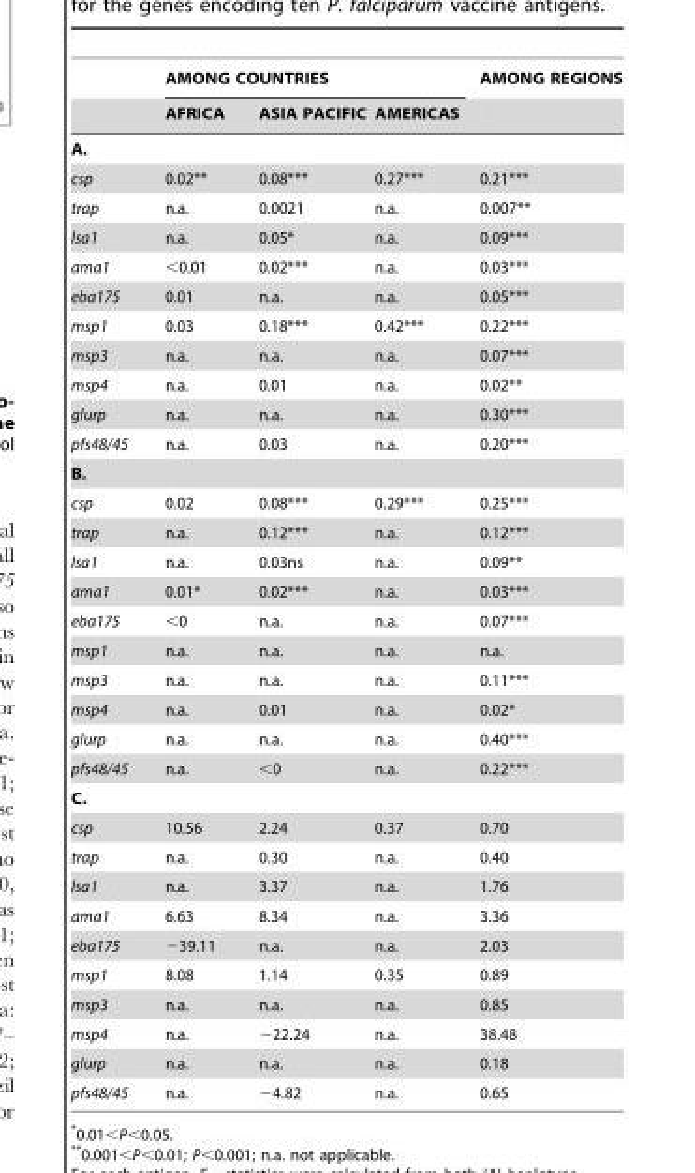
<table><thead><tr><td rowspan="2"></td><td colspan="3">AMONG COUNTRIES</td><td rowspan="2">AMONG REGIONS</td></tr><tr><td>AFRICA</td><td>ASIA PACIFIC</td><td>AMERICAS</td></tr></thead><tbody><tr><td colspan="5">A.</td></tr><tr><td>csp</td><td>0.02**</td><td>0.08***</td><td>0.27***</td><td>0.21***</td></tr><tr><td>trap</td><td>n.a.</td><td>0.0021</td><td>n.a.</td><td>0.007**</td></tr><tr><td>lsa1</td><td>n.a.</td><td>0.05*</td><td>n.a.</td><td>0.09***</td></tr><tr><td>ama1</td><td>&lt;0.01</td><td>0.02***</td><td>n.a.</td><td>0.03***</td></tr><tr><td>eba175</td><td>0.01</td><td>n.a.</td><td>n.a.</td><td>0.05***</td></tr><tr><td>msp1</td><td>0.03</td><td>0.18***</td><td>0.42***</td><td>0.22***</td></tr><tr><td>msp3</td><td>n.a.</td><td>n.a.</td><td>n.a.</td><td>0.07***</td></tr><tr><td>msp4</td><td>n.a.</td><td>0.01</td><td>n.a.</td><td>0.02**</td></tr><tr><td>glurp</td><td>n.a.</td><td>n.a.</td><td>n.a.</td><td>0.30***</td></tr><tr><td>pfs48/45</td><td>n.a.</td><td>0.03</td><td>n.a.</td><td>0.20***</td></tr><tr><td colspan="5">B.</td></tr><tr><td>csp</td><td>0.02</td><td>0.08***</td><td>0.29***</td><td>0.25***</td></tr><tr><td>trap</td><td>n.a.</td><td>0.12***</td><td>n.a.</td><td>0.12***</td></tr><tr><td>lsa1</td><td>n.a.</td><td>0.03ns</td><td>n.a.</td><td>0.09**</td></tr><tr><td>ama1</td><td>0.01*</td><td>0.02***</td><td>n.a.</td><td>0.03***</td></tr><tr><td>eba175</td><td>&lt;0</td><td>n.a.</td><td>n.a.</td><td>0.07***</td></tr><tr><td>msp1</td><td>n.a.</td><td>n.a.</td><td>n.a.</td><td>n.a.</td></tr><tr><td>msp3</td><td>n.a.</td><td>n.a.</td><td>n.a.</td><td>0.11***</td></tr><tr><td>msp4</td><td>n.a.</td><td>0.01</td><td>n.a.</td><td>0.02*</td></tr><tr><td>glurp</td><td>n.a.</td><td>n.a.</td><td>n.a.</td><td>0.40***</td></tr><tr><td>pfs48/45</td><td>n.a.</td><td>&lt;0</td><td>n.a.</td><td>0.22***</td></tr><tr><td colspan="5">C.</td></tr><tr><td>csp</td><td>10.56</td><td>2.24</td><td>0.37</td><td>0.70</td></tr><tr><td>trap</td><td>n.a.</td><td>0.30</td><td>n.a.</td><td>0.40</td></tr><tr><td>lsa1</td><td>n.a.</td><td>3.37</td><td>n.a.</td><td>1.76</td></tr><tr><td>ama1</td><td>6.63</td><td>8.34</td><td>n.a.</td><td>3.36</td></tr><tr><td>eba175</td><td>−39.11</td><td>n.a.</td><td>n.a.</td><td>2.03</td></tr><tr><td>msp1</td><td>8.08</td><td>1.14</td><td>0.35</td><td>0.89</td></tr><tr><td>msp3</td><td>n.a.</td><td>n.a.</td><td>n.a.</td><td>0.85</td></tr><tr><td>msp4</td><td>n.a.</td><td>−22.24</td><td>n.a.</td><td>38.48</td></tr><tr><td>glurp</td><td>n.a.</td><td>n.a.</td><td>n.a.</td><td>0.18</td></tr><tr><td>pfs48/45</td><td>n.a.</td><td>−4.82</td><td>n.a.</td><td>0.65</td></tr></tbody></table>